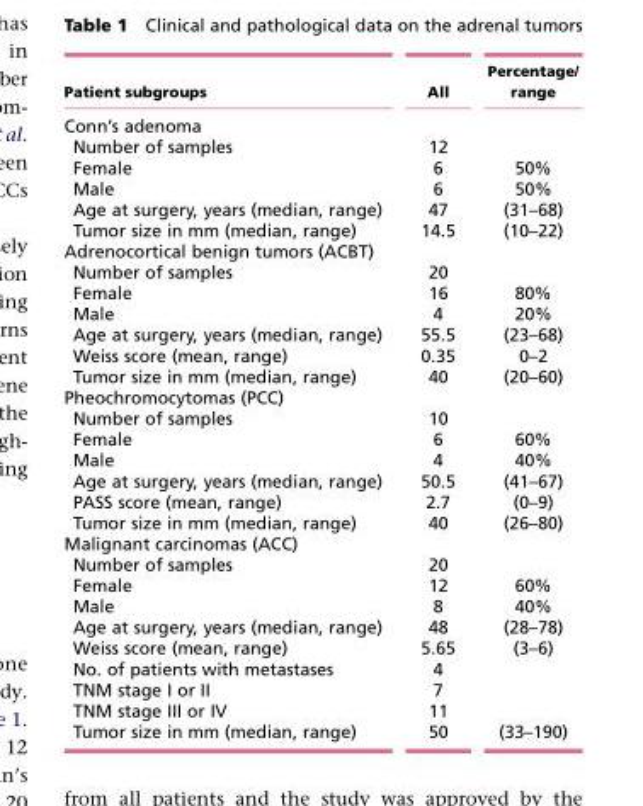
<table><thead><tr><td>Patient subgroups</td><td>All</td><td>Percentage/ range</td></tr></thead><tbody><tr><td colspan="3">Conn’s adenoma</td></tr><tr><td>Number of samples</td><td>12</td><td></td></tr><tr><td>Female</td><td>6</td><td>50%</td></tr><tr><td>Male</td><td>6</td><td>50%</td></tr><tr><td>Age at surgery, years (median, range)</td><td>47</td><td>(31–68)</td></tr><tr><td>Tumor size in mm (median, range)</td><td>14.5</td><td>(10–22)</td></tr><tr><td colspan="3">Adrenocortical benign tumors (ACBT)</td></tr><tr><td>Number of samples</td><td>20</td><td></td></tr><tr><td>Female</td><td>16</td><td>80%</td></tr><tr><td>Male</td><td>4</td><td>20%</td></tr><tr><td>Age at surgery, years (median, range)</td><td>55.5</td><td>(23–68)</td></tr><tr><td>Weiss score (mean, range)</td><td>0.35</td><td>0–2</td></tr><tr><td>Tumor size in mm (median, range)</td><td>40</td><td>(20–60)</td></tr><tr><td colspan="3">Pheochromocytomas (PCC)</td></tr><tr><td>Number of samples</td><td>10</td><td></td></tr><tr><td>Female</td><td>6</td><td>60%</td></tr><tr><td>Male</td><td>4</td><td>40%</td></tr><tr><td>Age at surgery, years (median, range)</td><td>50.5</td><td>(41–67)</td></tr><tr><td>PASS score (mean, range)</td><td>2.7</td><td>(0–9)</td></tr><tr><td>Tumor size in mm (median, range)</td><td>40</td><td>(26–80)</td></tr><tr><td colspan="3">Malignant carcinomas (ACC)</td></tr><tr><td>Number of samples</td><td>20</td><td></td></tr><tr><td>Female</td><td>12</td><td>60%</td></tr><tr><td>Male</td><td>8</td><td>40%</td></tr><tr><td>Age at surgery, years (median, range)</td><td>48</td><td>(28–78)</td></tr><tr><td>Weiss score (mean, range)</td><td>5.65</td><td>(3–6)</td></tr><tr><td>No. of patients with metastases</td><td>4</td><td></td></tr><tr><td>TNM stage I or II</td><td>7</td><td></td></tr><tr><td>TNM stage III or IV</td><td>11</td><td></td></tr><tr><td>Tumor size in mm (median, range)</td><td>50</td><td>(33–190)</td></tr></tbody></table>